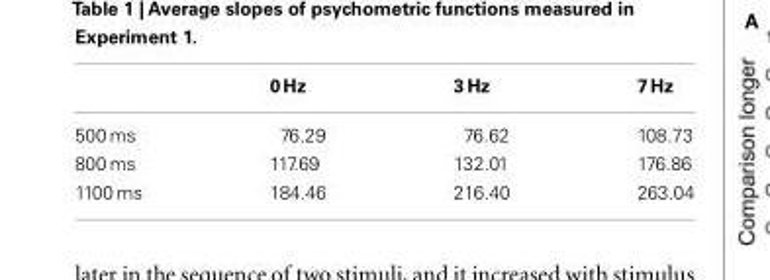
<table><thead><tr><td></td><td>0 Hz</td><td>3 Hz</td><td>7 Hz</td></tr></thead><tbody><tr><td>500 ms</td><td>76.29</td><td>76.62</td><td>108.73</td></tr><tr><td>800 ms</td><td>117.69</td><td>132.01</td><td>176.86</td></tr><tr><td>1100 ms</td><td>184.46</td><td>216.40</td><td>263.04</td></tr></tbody></table>